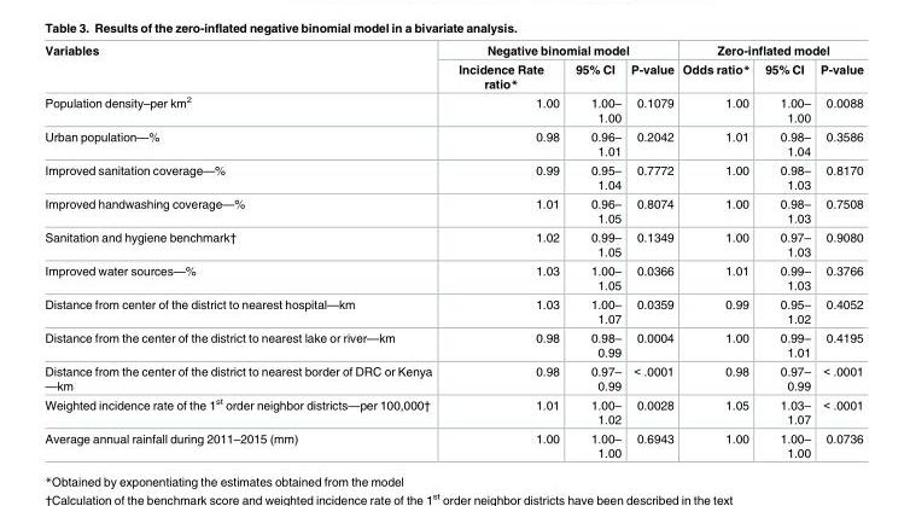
<table><thead><tr><td rowspan="2">Variables</td><td colspan="3">Negative binomial model</td><td colspan="3">Zero-inflated model</td></tr><tr><td>Incidence Rate ratio*</td><td>95% CI</td><td>P-value</td><td>Odds ratio*</td><td>95% CI</td><td>P-value</td></tr></thead><tbody><tr><td>Population density–per km<sup>2</sup></td><td>1.00</td><td>1.00– 1.00</td><td>0.1079</td><td>1.00</td><td>1.00– 1.00</td><td>0.0088</td></tr><tr><td>Urban population—%</td><td>0.98</td><td>0.96– 1.01</td><td>0.2042</td><td>1.01</td><td>0.98– 1.04</td><td>0.3586</td></tr><tr><td>Improved sanitation coverage—%</td><td>0.99</td><td>0.95– 1.04</td><td>0.7772</td><td>1.00</td><td>0.98– 1.03</td><td>0.8170</td></tr><tr><td>Improved handwashing coverage—%</td><td>1.01</td><td>0.96– 1.05</td><td>0.8074</td><td>1.00</td><td>0.98– 1.03</td><td>0.7508</td></tr><tr><td>Sanitation and hygiene benchmark†</td><td>1.02</td><td>0.99– 1.05</td><td>0.1349</td><td>1.00</td><td>0.97– 1.03</td><td>0.9080</td></tr><tr><td>Improved water sources—%</td><td>1.03</td><td>1.00– 1.05</td><td>0.0366</td><td>1.01</td><td>0.99– 1.03</td><td>0.3766</td></tr><tr><td>Distance from center of the district to nearest hospital—km</td><td>1.03</td><td>1.00– 1.07</td><td>0.0359</td><td>0.99</td><td>0.95– 1.02</td><td>0.4052</td></tr><tr><td>Distance from the center of the district to nearest lake or river—km</td><td>0.98</td><td>0.98– 0.99</td><td>0.0004</td><td>1.00</td><td>0.99– 1.01</td><td>0.4195</td></tr><tr><td>Distance from the center of the district to nearest border of DRC or Kenya —km</td><td>0.98</td><td>0.97– 0.99</td><td>&lt; .0001</td><td>0.98</td><td>0.97– 0.99</td><td>&lt; .0001</td></tr><tr><td>Weighted incidence rate of the 1<sup>st</sup> order neighbor districts—per 100,000†</td><td>1.01</td><td>1.00– 1.02</td><td>0.0028</td><td>1.05</td><td>1.03– 1.07</td><td>&lt; .0001</td></tr><tr><td>Average annual rainfall during 2011–2015 (mm)</td><td>1.00</td><td>1.00– 1.00</td><td>0.6943</td><td>1.00</td><td>1.00– 1.00</td><td>0.0736</td></tr></tbody></table>